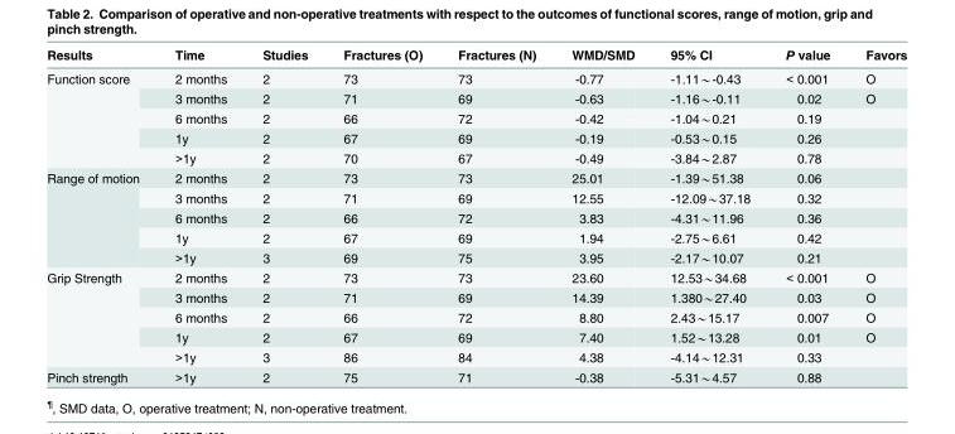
<table><thead><tr><td>Results</td><td>Time</td><td>Studies</td><td>Fractures (O)</td><td>Fractures (N)</td><td>WMD/SMD</td><td>95% CI</td><td>P value</td><td>Favors</td></tr></thead><tbody><tr><td rowspan="5">Function score</td><td>2 months</td><td>2</td><td>73</td><td>73</td><td>-0.77</td><td>-1.11*-0.43</td><td>&lt; 0.001</td><td>O</td></tr><tr><td>3 months</td><td>2</td><td>71</td><td>69</td><td>-0.63</td><td>-1.16*-0.11</td><td>0.02</td><td>O</td></tr><tr><td>6 months</td><td>2</td><td>66</td><td>72</td><td>-0.42</td><td>-1.04*0.21</td><td>0.19</td><td></td></tr><tr><td>1y</td><td>2</td><td>67</td><td>69</td><td>-0.19</td><td>-0.53*0.15</td><td>0.26</td><td></td></tr><tr><td>&gt;1y</td><td>2</td><td>70</td><td>67</td><td>-0.49</td><td>-3.84*2.87</td><td>0.78</td><td></td></tr><tr><td rowspan="5">Range of motion</td><td>2 months</td><td>2</td><td>73</td><td>73</td><td>25.01</td><td>-1.39*51.38</td><td>0.06</td><td></td></tr><tr><td>3 months</td><td>2</td><td>71</td><td>69</td><td>12.55</td><td>-12.09*37.18</td><td>0.32</td><td></td></tr><tr><td>6 months</td><td>2</td><td>66</td><td>72</td><td>3.83</td><td>-4.31*11.96</td><td>0.36</td><td></td></tr><tr><td>1y</td><td>2</td><td>67</td><td>69</td><td>1.94</td><td>-2.75*6.61</td><td>0.42</td><td></td></tr><tr><td>&gt;1y</td><td>3</td><td>69</td><td>75</td><td>3.95</td><td>-2.17*10.07</td><td>0.21</td><td></td></tr><tr><td rowspan="5">Grip Strength</td><td>2 months</td><td>2</td><td>73</td><td>73</td><td>23.60</td><td>12.53*34.68</td><td>&lt; 0.001</td><td>O</td></tr><tr><td>3 months</td><td>2</td><td>71</td><td>69</td><td>14.39</td><td>1.380*27.40</td><td>0.03</td><td>O</td></tr><tr><td>6 months</td><td>2</td><td>66</td><td>72</td><td>8.80</td><td>2.43*15.17</td><td>0.007</td><td>O</td></tr><tr><td>1y</td><td>2</td><td>67</td><td>69</td><td>7.40</td><td>1.52*13.28</td><td>0.01</td><td>O</td></tr><tr><td>&gt;1y</td><td>3</td><td>86</td><td>84</td><td>4.38</td><td>-4.14*12.31</td><td>0.33</td><td></td></tr><tr><td>Pinch strength</td><td>&gt;1y</td><td>2</td><td>75</td><td>71</td><td>-0.38</td><td>-5.31*4.57</td><td>0.88</td><td></td></tr></tbody></table>